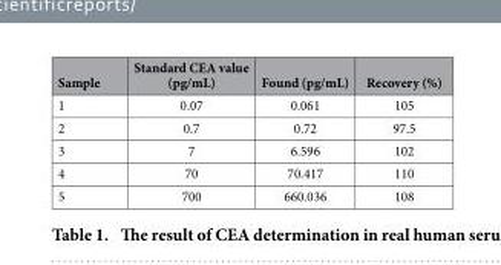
<table><thead><tr><td>Sample</td><td>Standard CEA value (pg/mL)</td><td>Found (pg/mL)</td><td>Recovery (%)</td></tr></thead><tbody><tr><td>1</td><td>0.07</td><td>0.061</td><td>105</td></tr><tr><td>2</td><td>0.7</td><td>0.72</td><td>97.5</td></tr><tr><td>3</td><td>7</td><td>6.596</td><td>102</td></tr><tr><td>4</td><td>70</td><td>70.417</td><td>110</td></tr><tr><td>5</td><td>700</td><td>660.036</td><td>108</td></tr></tbody></table>